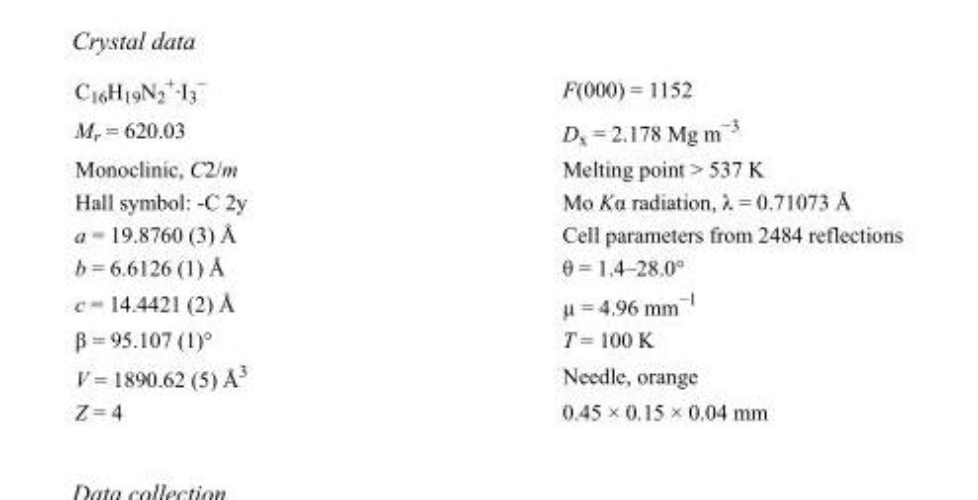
<table><tbody><tr><td>C<sub>16</sub>H<sub>19</sub>N<sub>2</sub> <sup>+</sup>·I<sub>3</sub> <sup>−</sup></td><td>F(000) = 1152</td></tr><tr><td>M<sub>r</sub> = 620.03</td><td>D<sub>x</sub> = 2.178 Mg m<sup>−3</sup></td></tr><tr><td>Monoclinic, C2/m</td><td>Melting point &gt; 537 K</td></tr><tr><td>Hall symbol: -C 2y</td><td>Mo Kα radiation, λ = 0.71073 Å</td></tr><tr><td>a = 19.8760 (3) Å</td><td>Cell parameters from 2484 reflections</td></tr><tr><td>b = 6.6126 (1) Å</td><td>θ = 1.4–28.0°</td></tr><tr><td>c = 14.4421 (2) Å</td><td>µ = 4.96 mm<sup>−1</sup></td></tr><tr><td>β = 95.107 (1)°</td><td>T = 100 K</td></tr><tr><td>V = 1890.62 (5) Å<sup>3</sup></td><td>Needle, orange</td></tr><tr><td>Z = 4</td><td>0.45 × 0.15 × 0.04 mm</td></tr></tbody></table>